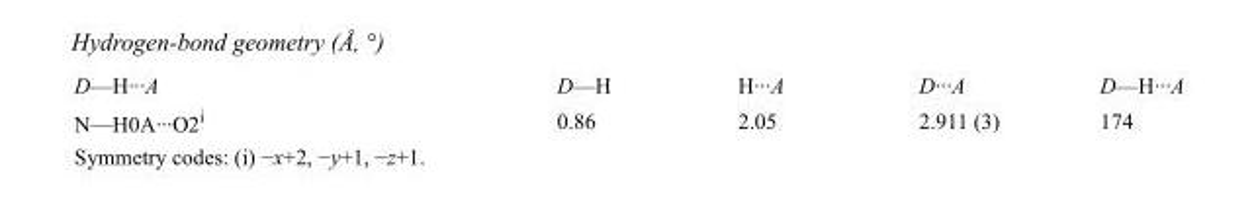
<table><tbody><tr><td>D—H···A</td><td>D—H</td><td>H···A</td><td>D···A</td><td>D—H···A</td></tr><tr><td>N—H0A···O2<sup>i</sup></td><td>0.86</td><td>2.05</td><td>2.911 (3)</td><td>174</td></tr></tbody></table>